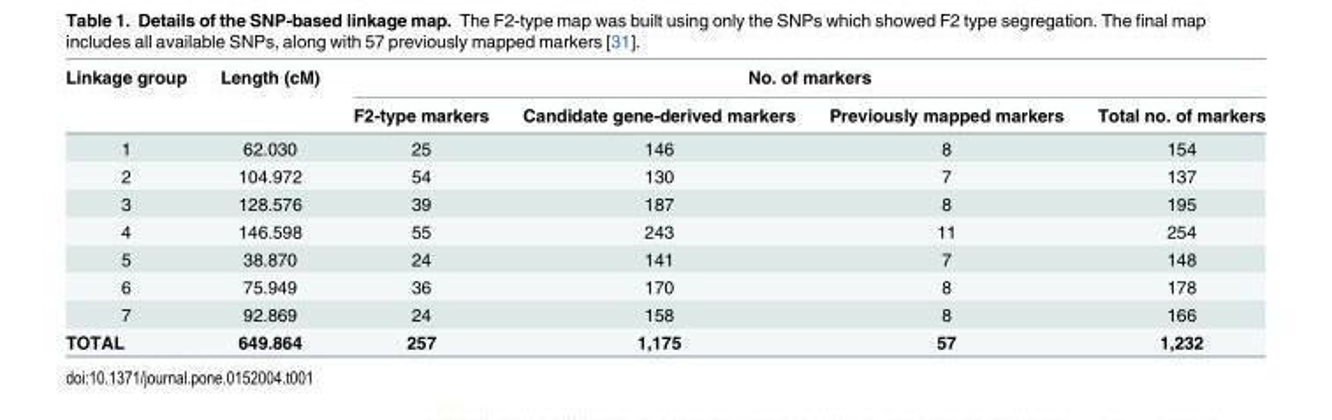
<table><thead><tr><td rowspan="2">Linkage group</td><td rowspan="2">Length (cM)</td><td colspan="4">No. of markers</td></tr><tr><td>F2-type markers</td><td>Candidate gene-derived markers</td><td>Previously mapped markers</td><td>Total no. of markers</td></tr></thead><tbody><tr><td>1</td><td>62.030</td><td>25</td><td>146</td><td>8</td><td>154</td></tr><tr><td>2</td><td>104.972</td><td>54</td><td>130</td><td>7</td><td>137</td></tr><tr><td>3</td><td>128.576</td><td>39</td><td>187</td><td>8</td><td>195</td></tr><tr><td>4</td><td>146.598</td><td>55</td><td>243</td><td>11</td><td>254</td></tr><tr><td>5</td><td>38.870</td><td>24</td><td>141</td><td>7</td><td>148</td></tr><tr><td>6</td><td>75.949</td><td>36</td><td>170</td><td>8</td><td>178</td></tr><tr><td>7</td><td>92.869</td><td>24</td><td>158</td><td>8</td><td>166</td></tr><tr><td>TOTAL</td><td>649.864</td><td>257</td><td>1,175</td><td>57</td><td>1,232</td></tr></tbody></table>